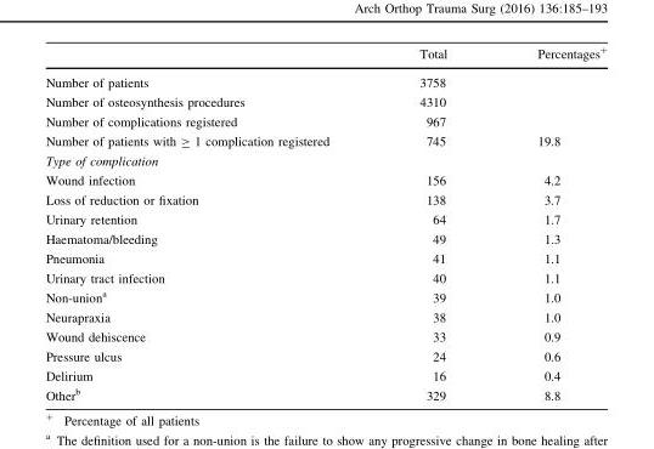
<table><thead><tr><td></td><td>Total</td><td>Percentages<sup>+</sup></td></tr></thead><tbody><tr><td>Number of patients</td><td>3758</td><td></td></tr><tr><td>Number of osteosynthesis procedures</td><td>4310</td><td></td></tr><tr><td>Number of complications registered</td><td>967</td><td></td></tr><tr><td>Number of patients with ≥ 1 complication registered</td><td>745</td><td>19.8</td></tr><tr><td colspan="3">Type of complication</td></tr><tr><td>Wound infection</td><td>156</td><td>4.2</td></tr><tr><td>Loss of reduction or fixation</td><td>138</td><td>3.7</td></tr><tr><td>Urinary retention</td><td>64</td><td>1.7</td></tr><tr><td>Haematoma/bleeding</td><td>49</td><td>1.3</td></tr><tr><td>Pneumonia</td><td>41</td><td>1.1</td></tr><tr><td>Urinary tract infection</td><td>40</td><td>1.1</td></tr><tr><td>Non-union<sup>a</sup></td><td>39</td><td>1.0</td></tr><tr><td>Neurapraxia</td><td>38</td><td>1.0</td></tr><tr><td>Wound dehiscence</td><td>33</td><td>0.9</td></tr><tr><td>Pressure ulcus</td><td>24</td><td>0.6</td></tr><tr><td>Delirium</td><td>16</td><td>0.4</td></tr><tr><td>Other<sup>b</sup></td><td>329</td><td>8.8</td></tr></tbody></table>